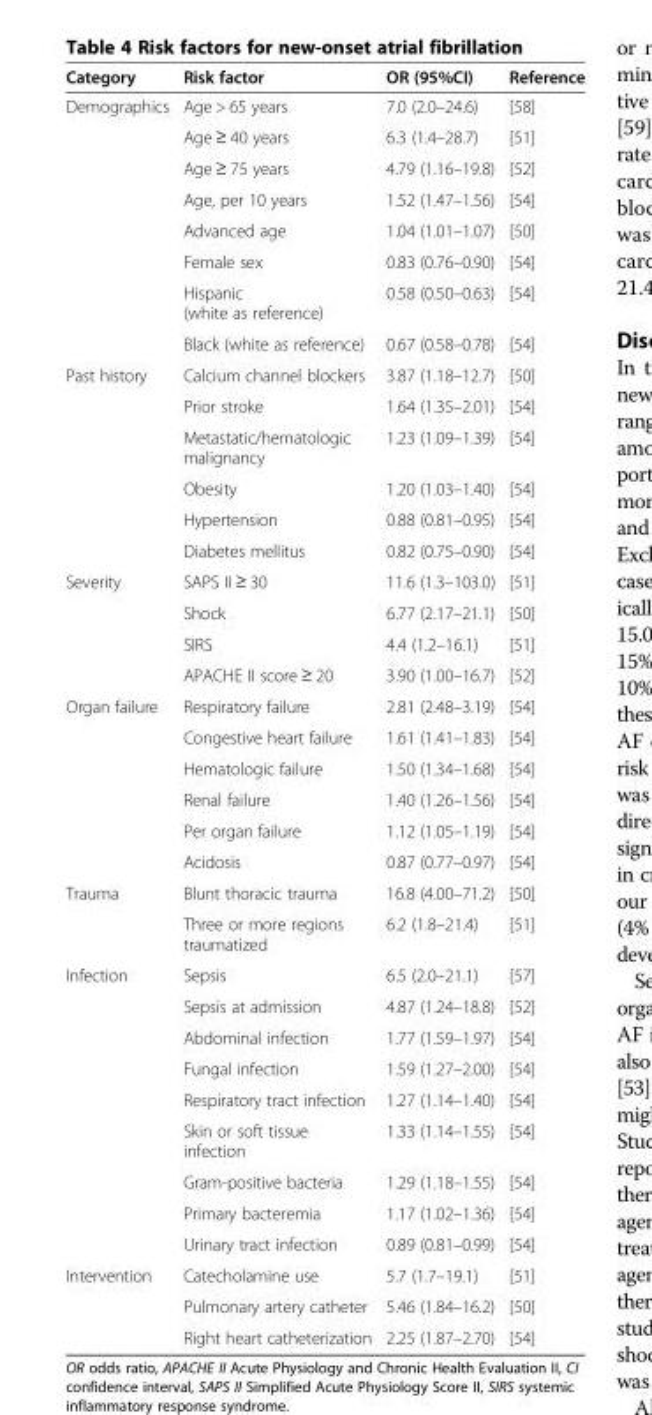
<table><thead><tr><td>Category</td><td>Risk factor</td><td>OR (95%CI)</td><td>Reference</td></tr></thead><tbody><tr><td rowspan="8">Demographics</td><td>Age &gt; 65 years</td><td>7.0 (2.0–24.6)</td><td>[58]</td></tr><tr><td>Age ≥ 40 years</td><td>6.3 (1.4–28.7)</td><td>[51]</td></tr><tr><td>Age ≥ 75 years</td><td>4.79 (1.16–19.8)</td><td>[52]</td></tr><tr><td>Age, per 10 years</td><td>1.52 (1.47–1.56)</td><td>[54]</td></tr><tr><td>Advanced age</td><td>1.04 (1.01–1.07)</td><td>[50]</td></tr><tr><td>Female sex</td><td>0.83 (0.76–0.90)</td><td>[54]</td></tr><tr><td>Hispanic (white as reference)</td><td>0.58 (0.50–0.63)</td><td>[54]</td></tr><tr><td>Black (white as reference)</td><td>0.67 (0.58–0.78)</td><td>[54]</td></tr><tr><td rowspan="6">Past history</td><td>Calcium channel blockers</td><td>3.87 (1.18–12.7)</td><td>[50]</td></tr><tr><td>Prior stroke</td><td>1.64 (1.35–2.01)</td><td>[54]</td></tr><tr><td>Metastatic/hematologic malignancy</td><td>1.23 (1.09–1.39)</td><td>[54]</td></tr><tr><td>Obesity</td><td>1.20 (1.03–1.40)</td><td>[54]</td></tr><tr><td>Hypertension</td><td>0.88 (0.81–0.95)</td><td>[54]</td></tr><tr><td>Diabetes mellitus</td><td>0.82 (0.75–0.90)</td><td>[54]</td></tr><tr><td rowspan="4">Severity</td><td>SAPS II ≥ 30</td><td>11.6 (1.3–103.0)</td><td>[51]</td></tr><tr><td>Shock</td><td>6.77 (2.17–21.1)</td><td>[50]</td></tr><tr><td>SIRS</td><td>4.4 (1.2–16.1)</td><td>[51]</td></tr><tr><td>APACHE II score ≥ 20</td><td>3.90 (1.00–16.7)</td><td>[52]</td></tr><tr><td rowspan="6">Organ failure</td><td>Respiratory failure</td><td>2.81 (2.48–3.19)</td><td>[54]</td></tr><tr><td>Congestive heart failure</td><td>1.61 (1.41–1.83)</td><td>[54]</td></tr><tr><td>Hematologic failure</td><td>1.50 (1.34–1.68)</td><td>[54]</td></tr><tr><td>Renal failure</td><td>1.40 (1.26–1.56)</td><td>[54]</td></tr><tr><td>Per organ failure</td><td>1.12 (1.05–1.19)</td><td>[54]</td></tr><tr><td>Acidosis</td><td>0.87 (0.77–0.97)</td><td>[54]</td></tr><tr><td rowspan="2">Trauma</td><td>Blunt thoracic trauma</td><td>16.8 (4.00–71.2)</td><td>[50]</td></tr><tr><td>Three or more regions traumatized</td><td>6.2 (1.8–21.4)</td><td>[51]</td></tr><tr><td rowspan="9">Infection</td><td>Sepsis</td><td>6.5 (2.0–21.1)</td><td>[57]</td></tr><tr><td>Sepsis at admission</td><td>4.87 (1.24–18.8)</td><td>[52]</td></tr><tr><td>Abdominal infection</td><td>1.77 (1.59–1.97)</td><td>[54]</td></tr><tr><td>Fungal infection</td><td>1.59 (1.27–2.00)</td><td>[54]</td></tr><tr><td>Respiratory tract infection</td><td>1.27 (1.14–1.40)</td><td>[54]</td></tr><tr><td>Skin or soft tissue infection</td><td>1.33 (1.14–1.55)</td><td>[54]</td></tr><tr><td>Gram-positive bacteria</td><td>1.29 (1.18–1.55)</td><td>[54]</td></tr><tr><td>Primary bacteremia</td><td>1.17 (1.02–1.36)</td><td>[54]</td></tr><tr><td>Urinary tract infection</td><td>0.89 (0.81–0.99)</td><td>[54]</td></tr><tr><td rowspan="3">Intervention</td><td>Catecholamine use</td><td>5.7 (1.7–19.1)</td><td>[51]</td></tr><tr><td>Pulmonary artery catheter</td><td>5.46 (1.84–16.2)</td><td>[50]</td></tr><tr><td>Right heart catheterization</td><td>2.25 (1.87–2.70)</td><td>[54]</td></tr></tbody></table>